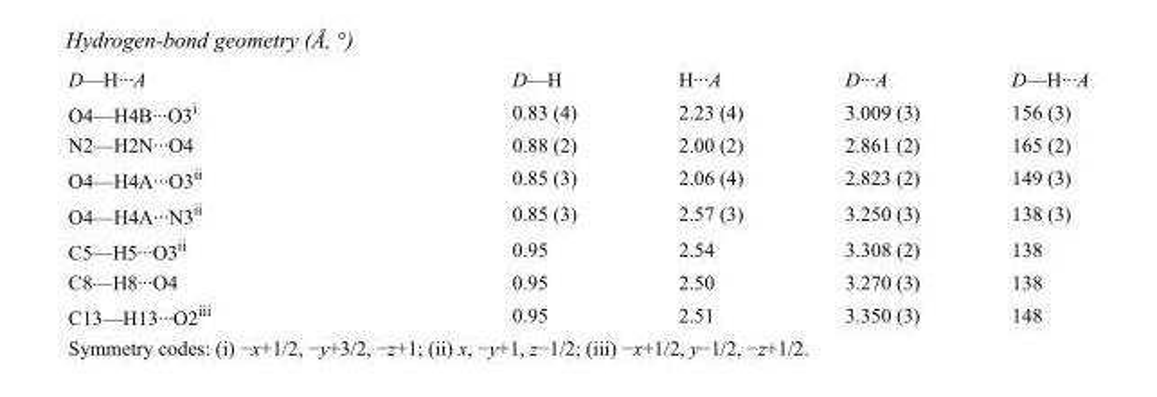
<table><tbody><tr><td>D—H···A</td><td>D—H</td><td>H···A</td><td>D···A</td><td>D—H···A</td></tr><tr><td>O4—H4B···O3<sup>i</sup></td><td>0.83 (4)</td><td>2.23 (4)</td><td>3.009 (3)</td><td>156 (3)</td></tr><tr><td>N2—H2N···O4</td><td>0.88 (2)</td><td>2.00 (2)</td><td>2.861 (2)</td><td>165 (2)</td></tr><tr><td>O4—H4A···O3<sup>ii</sup></td><td>0.85 (3)</td><td>2.06 (4)</td><td>2.823 (2)</td><td>149 (3)</td></tr><tr><td>O4—H4A···N3<sup>ii</sup></td><td>0.85 (3)</td><td>2.57 (3)</td><td>3.250 (3)</td><td>138 (3)</td></tr><tr><td>C5—H5···O3<sup>ii</sup></td><td>0.95</td><td>2.54</td><td>3.308 (2)</td><td>138</td></tr><tr><td>C8—H8···O4</td><td>0.95</td><td>2.50</td><td>3.270 (3)</td><td>138</td></tr><tr><td>C13—H13···O2<sup>iii</sup></td><td>0.95</td><td>2.51</td><td>3.350 (3)</td><td>148</td></tr></tbody></table>